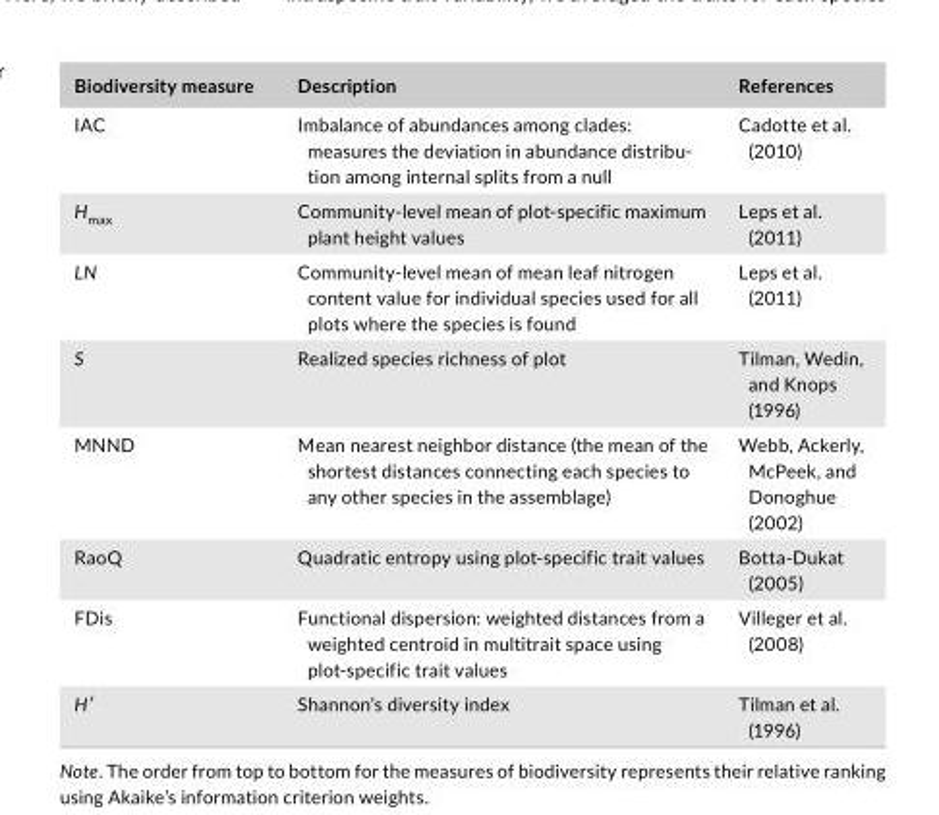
<table><thead><tr><td>Biodiversity measure</td><td>Description</td><td>References</td></tr></thead><tbody><tr><td>IAC</td><td>Imbalance of abundances among clades: measures the deviation in abundance distribu- tion among internal splits from a null</td><td>Cadotte et al. (2010)</td></tr><tr><td>H<sub>max</sub></td><td>Community- level mean of plot- specific maximum plant height values</td><td>Leps et al. (2011)</td></tr><tr><td>LN</td><td>Community- level mean of mean leaf nitrogen content value for individual species used for all plots where the species is found</td><td>Leps et al. (2011)</td></tr><tr><td>S</td><td>Realized species richness of plot</td><td>Tilman, Wedin, and Knops (1996)</td></tr><tr><td>MNND</td><td>Mean nearest neighbor distance (the mean of the shortest distances connecting each species to any other species in the assemblage)</td><td>Webb, Ackerly, McPeek, and Donoghue (2002)</td></tr><tr><td>RaoQ</td><td>Quadratic entropy using plot- specific trait values</td><td>Botta- Dukat (2005)</td></tr><tr><td>FDis</td><td>Functional dispersion: weighted distances from a weighted centroid in multitrait space using plot- specific trait values</td><td>Villeger et al. (2008)</td></tr><tr><td>H′</td><td>Shannon’s diversity index</td><td>Tilman et al. (1996)</td></tr></tbody></table>